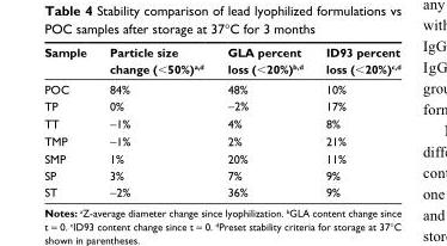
<table><thead><tr><td>Sample</td><td>Particle size change (&lt;50%)<sup>a</sup>,<sup>d</sup></td><td>GLA percent loss (&lt;20%)<sup>b</sup>,<sup>d</sup></td><td>ID93 percent loss (&lt;20%)<sup>c</sup>,<sup>d</sup></td></tr></thead><tbody><tr><td>POc</td><td>84%</td><td>48%</td><td>10%</td></tr><tr><td>TP</td><td>0%</td><td>−2%</td><td>17%</td></tr><tr><td>TT</td><td>−1%</td><td>4%</td><td>8%</td></tr><tr><td>TMP</td><td>−1%</td><td>2%</td><td>21%</td></tr><tr><td>sMP</td><td>1%</td><td>20%</td><td>11%</td></tr><tr><td>sP</td><td>3%</td><td>7%</td><td>9%</td></tr><tr><td>sT</td><td>−2%</td><td>36%</td><td>9%</td></tr></tbody></table>